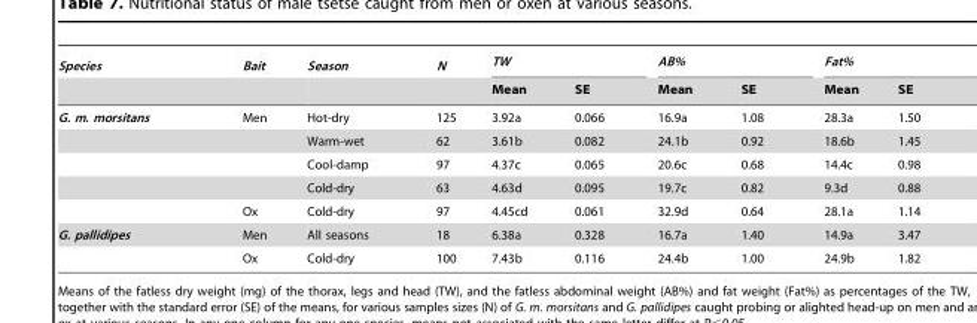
<table><thead><tr><td rowspan="2">Species</td><td rowspan="2">Bait</td><td rowspan="2">Season</td><td rowspan="2">N</td><td colspan="2">TW</td><td colspan="2">AB%</td><td colspan="2">Fat%</td></tr><tr><td>Mean</td><td>SE</td><td>Mean</td><td>SE</td><td>Mean</td><td>SE</td></tr></thead><tbody><tr><td rowspan="5">G. m. morsitans</td><td>Men</td><td>Hot-dry</td><td>125</td><td>3.92a</td><td>0.066</td><td>16.9a</td><td>1.08</td><td>28.3a</td><td>1.50</td></tr><tr><td></td><td>Warm-wet</td><td>62</td><td>3.61b</td><td>0.082</td><td>24.1b</td><td>0.92</td><td>18.6b</td><td>1.45</td></tr><tr><td></td><td>Cool-damp</td><td>97</td><td>4.37c</td><td>0.065</td><td>20.6c</td><td>0.68</td><td>14.4c</td><td>0.98</td></tr><tr><td></td><td>Cold-dry</td><td>63</td><td>4.63d</td><td>0.095</td><td>19.7c</td><td>0.82</td><td>9.3d</td><td>0.88</td></tr><tr><td>Ox</td><td>Cold-dry</td><td>97</td><td>4.45cd</td><td>0.061</td><td>32.9d</td><td>0.64</td><td>28.1a</td><td>1.14</td></tr><tr><td rowspan="2">G. pallidipes</td><td>Men</td><td>All seasons</td><td>18</td><td>6.38a</td><td>0.328</td><td>16.7a</td><td>1.40</td><td>14.9a</td><td>3.47</td></tr><tr><td>Ox</td><td>Cold-dry</td><td>100</td><td>7.43b</td><td>0.116</td><td>24.4b</td><td>1.00</td><td>24.9b</td><td>1.82</td></tr></tbody></table>